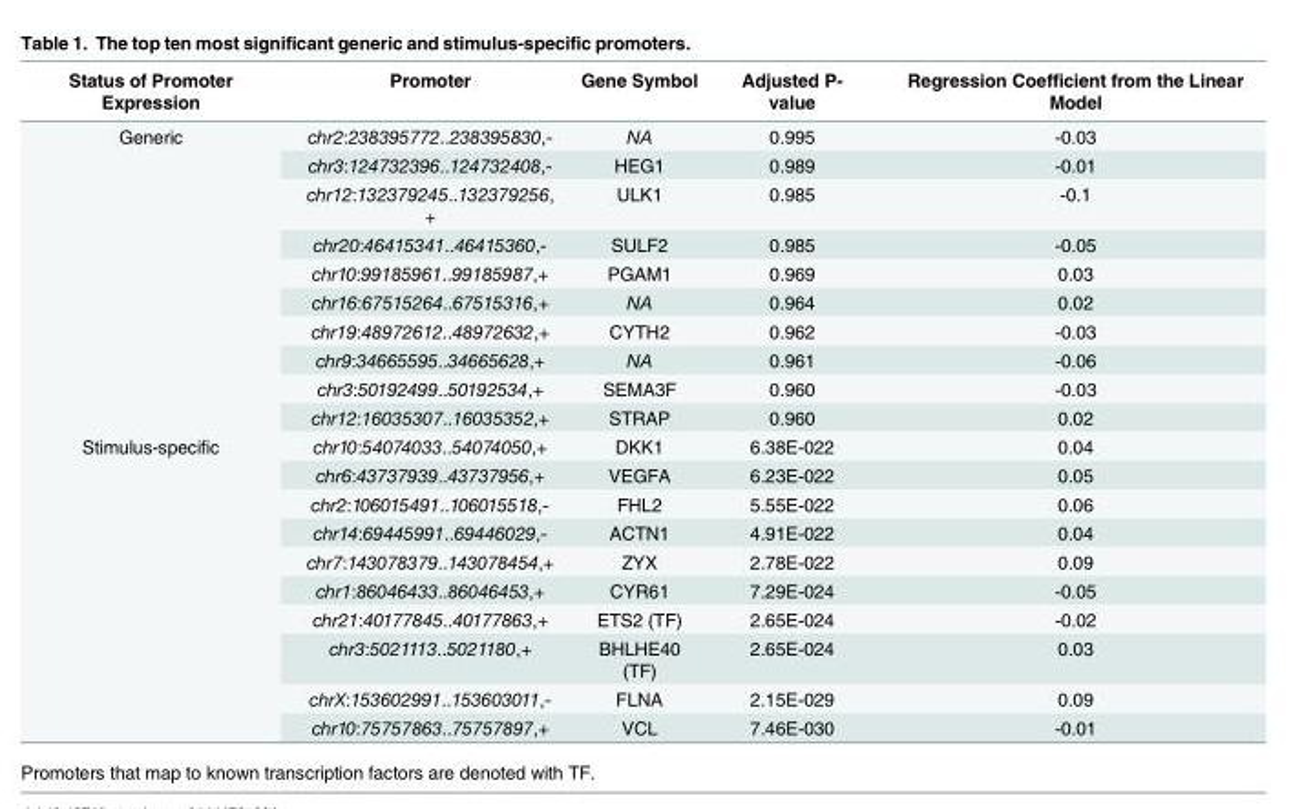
<table><thead><tr><td>Status of Promoter Expression</td><td>Promoter</td><td>Gene Symbol</td><td>Adjusted P- value</td><td>Regression Coefficient from the Linear Model</td></tr></thead><tbody><tr><td rowspan="10">Generic</td><td>chr2:238395772..238395830,-</td><td>NA</td><td>0.995</td><td>-0.03</td></tr><tr><td>chr3:124732396..124732408,-</td><td>HEG1</td><td>0.989</td><td>-0.01</td></tr><tr><td>chr12:132379245..132379256, +</td><td>ULK1</td><td>0.985</td><td>-0.1</td></tr><tr><td>chr20:46415341..46415360,-</td><td>SULF2</td><td>0.985</td><td>-0.05</td></tr><tr><td>chr10:99185961..99185987,+</td><td>PGAM1</td><td>0.969</td><td>0.03</td></tr><tr><td>chr16:67515264..67515316,+</td><td>NA</td><td>0.964</td><td>0.02</td></tr><tr><td>chr19:48972612..48972632,+</td><td>CYTH2</td><td>0.962</td><td>-0.03</td></tr><tr><td>chr9:34665595..34665628,+</td><td>NA</td><td>0.961</td><td>-0.06</td></tr><tr><td>chr3:50192499..50192534,+</td><td>SEMA3F</td><td>0.960</td><td>-0.03</td></tr><tr><td>chr12:16035307..16035352,+</td><td>STRAP</td><td>0.960</td><td>0.02</td></tr><tr><td rowspan="10">Stimulus-specific</td><td>chr10:54074033..54074050,+</td><td>DKK1</td><td>6.38E-022</td><td>0.04</td></tr><tr><td>chr6:43737939..43737956,+</td><td>VEGFA</td><td>6.23E-022</td><td>0.05</td></tr><tr><td>chr2:106015491..106015518,-</td><td>FHL2</td><td>5.55E-022</td><td>0.06</td></tr><tr><td>chr14:69445991..69446029,-</td><td>ACTN1</td><td>4.91E-022</td><td>0.04</td></tr><tr><td>chr7:143078379..143078454,+</td><td>ZYX</td><td>2.78E-022</td><td>0.09</td></tr><tr><td>chr1:86046433..86046453,+</td><td>CYR61</td><td>7.29E-024</td><td>-0.05</td></tr><tr><td>chr21:40177845..40177863,+</td><td>ETS2 (TF)</td><td>2.65E-024</td><td>-0.02</td></tr><tr><td>chr3:5021113..5021180,+</td><td>BHLHE40 (TF)</td><td>2.65E-024</td><td>0.03</td></tr><tr><td>chrX:153602991..153603011,-</td><td>FLNA</td><td>2.15E-029</td><td>0.09</td></tr><tr><td>chr10:75757863..75757897,+</td><td>VCL</td><td>7.46E-030</td><td>-0.01</td></tr></tbody></table>